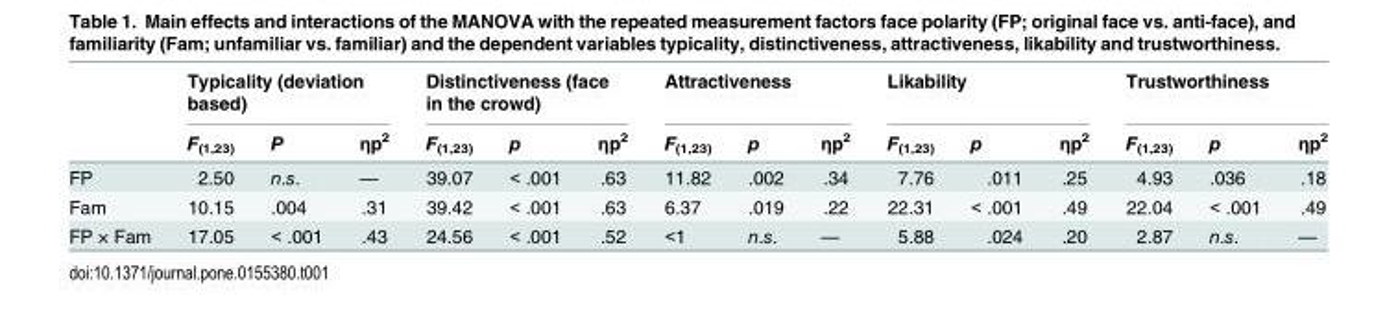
<table><thead><tr><td rowspan="2"></td><td colspan="3">Typicality (deviation based)</td><td colspan="3">Distinctiveness (face in the crowd)</td><td colspan="3">Attractiveness</td><td colspan="3">Likability</td><td colspan="3">Trustworthiness</td></tr><tr><td>F<sub>(1,23)</sub></td><td>P</td><td>ηp<sup>2</sup></td><td>F<sub>(1,23)</sub></td><td>p</td><td>ηp<sup>2</sup></td><td>F<sub>(1,23)</sub></td><td>p</td><td>ηp<sup>2</sup></td><td>F<sub>(1,23)</sub></td><td>p</td><td>ηp<sup>2</sup></td><td>F<sub>(1,23)</sub></td><td>p</td><td>ηp<sup>2</sup></td></tr></thead><tbody><tr><td>FP</td><td>2.50</td><td>n.s.</td><td>—</td><td>39.07</td><td>&lt; .001</td><td>.63</td><td>11.82</td><td>.002</td><td>.34</td><td>7.76</td><td>.011</td><td>.25</td><td>4.93</td><td>.036</td><td>.18</td></tr><tr><td>Fam</td><td>10.15</td><td>.004</td><td>.31</td><td>39.42</td><td>&lt; .001</td><td>.63</td><td>6.37</td><td>.019</td><td>.22</td><td>22.31</td><td>&lt; .001</td><td>.49</td><td>22.04</td><td>&lt; .001</td><td>.49</td></tr><tr><td>FP × Fam</td><td>17.05</td><td>&lt; .001</td><td>.43</td><td>24.56</td><td>&lt; .001</td><td>.52</td><td>&lt;1</td><td>n.s.</td><td>—</td><td>5.88</td><td>.024</td><td>.20</td><td>2.87</td><td>n.s.</td><td>—</td></tr></tbody></table>